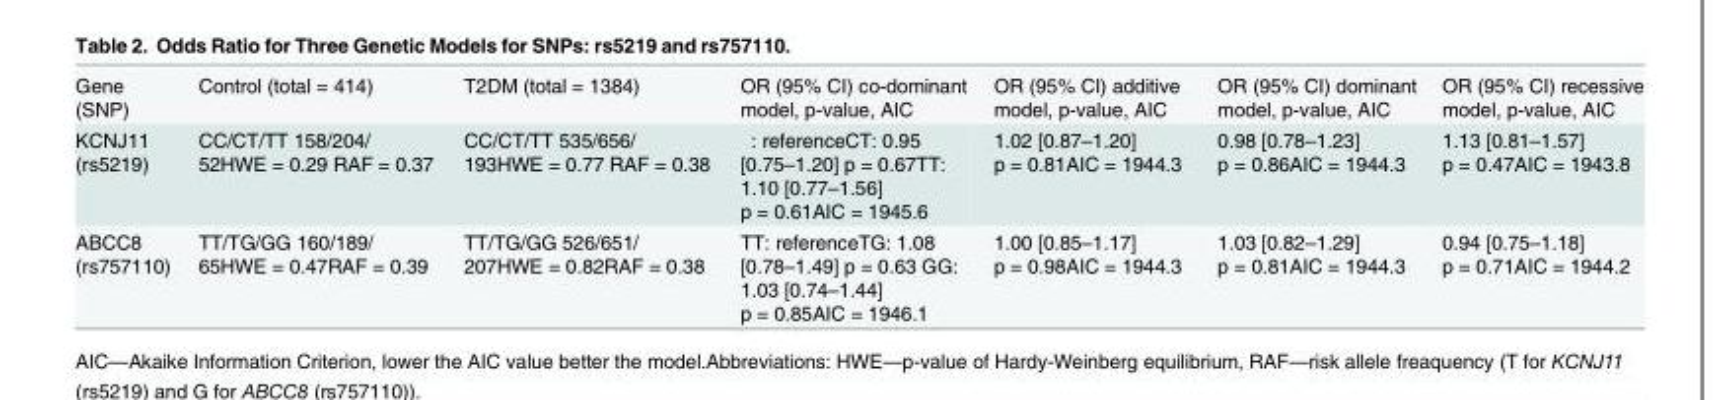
<table><tbody><tr><td>Gene (SNP)</td><td>Control (total = 414)</td><td>T2DM (total = 1384)</td><td>OR (95% CI) co-dominant model, p-value, AIC</td><td>OR (95% CI) additive model, p-value, AIC</td><td>OR (95% CI) dominant model, p-value, AIC</td><td>OR (95% CI) recessive model, p-value, AIC</td></tr><tr><td>KCNJ11 (rs5219)</td><td>CC/CT/TT 158/204/ 52HWE = 0.29 RAF = 0.37</td><td>CC/CT/TT 535/656/ 193HWE = 0.77 RAF = 0.38</td><td>СС: referenceCT: 0.95 [0.75–1.20] p = 0.67TT: 1.10 [0.77–1.56] p = 0.61AIC = 1945.6</td><td>1.02 [0.87–1.20] p = 0.81AIC = 1944.3</td><td>0.98 [0.78–1.23] p = 0.86AIC = 1944.3</td><td>1.13 [0.81–1.57] p = 0.47AIC = 1943.8</td></tr><tr><td>ABCC8 (rs757110)</td><td>TT/TG/GG 160/189/ 65HWE = 0.47RAF = 0.39</td><td>TT/TG/GG 526/651/ 207HWE = 0.82RAF = 0.38</td><td>TT: referenceTG: 1.08 [0.78–1.49] p = 0.63 GG: 1.03 [0.74–1.44] p = 0.85AIC = 1946.1</td><td>1.00 [0.85–1.17] p = 0.98AIC = 1944.3</td><td>1.03 [0.82–1.29] p = 0.81AIC = 1944.3</td><td>0.94 [0.75–1.18] p = 0.71AIC = 1944.2</td></tr></tbody></table>